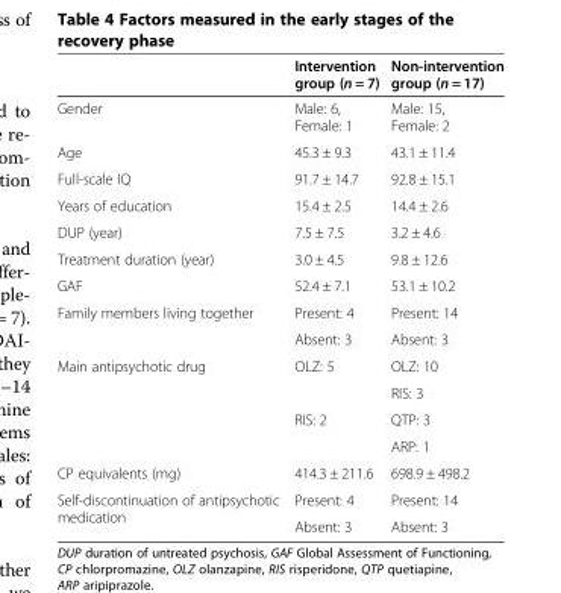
<table><thead><tr><td></td><td>Intervention group (n = 7)</td><td>Non-intervention group (n = 17)</td></tr></thead><tbody><tr><td>Gender</td><td>Male: 6, Female: 1</td><td>Male: 15, Female: 2</td></tr><tr><td>Age</td><td>45.3 ± 9.3</td><td>43.1 ± 11.4</td></tr><tr><td>Full-scale IQ</td><td>91.7 ± 14.7</td><td>92.8 ± 15.1</td></tr><tr><td>Years of education</td><td>15.4 ± 2.5</td><td>14.4 ± 2.6</td></tr><tr><td>DUP (year)</td><td>7.5 ± 7.5</td><td>3.2 ± 4.6</td></tr><tr><td>Treatment duration (year)</td><td>3.0 ± 4.5</td><td>9.8 ± 12.6</td></tr><tr><td>GAF</td><td>52.4 ± 7.1</td><td>53.1 ± 10.2</td></tr><tr><td rowspan="2">Family members living together</td><td>Present: 4</td><td>Present: 14</td></tr><tr><td>Absent: 3</td><td>Absent: 3</td></tr><tr><td rowspan="4">Main antipsychotic drug</td><td rowspan="2">OLZ: 5</td><td>OLZ: 10</td></tr><tr><td>RIS: 3</td></tr><tr><td rowspan="2">RIS: 2</td><td>QTP: 3</td></tr><tr><td>ARP: 1</td></tr><tr><td>CP equivalents (mg)</td><td>414.3 ± 211.6</td><td>698.9 ± 498.2</td></tr><tr><td rowspan="2">Self-discontinuation of antipsychotic medication</td><td>Present: 4</td><td>Present: 14</td></tr><tr><td>Absent: 3</td><td>Absent: 3</td></tr></tbody></table>